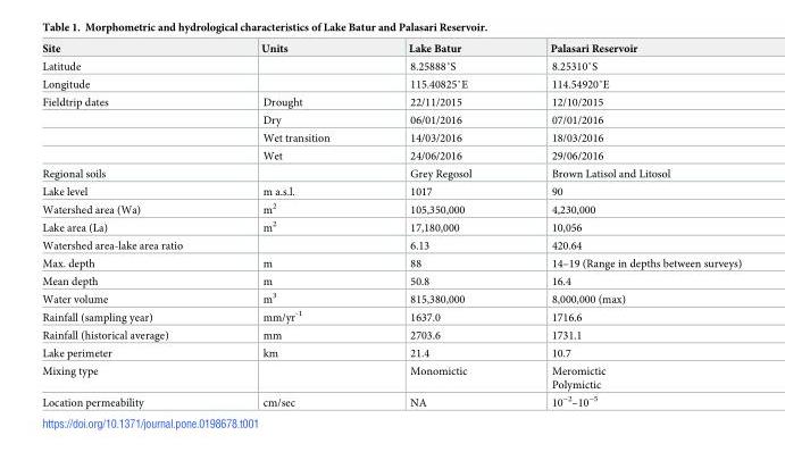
<table><thead><tr><td>Site</td><td>Units</td><td>Lake Batur</td><td>Palasari Reservoir</td></tr></thead><tbody><tr><td>Latitude</td><td></td><td>8.25888˚S</td><td>8.25310˚S</td></tr><tr><td>Longitude</td><td></td><td>115.40825˚E</td><td>114.54920˚E</td></tr><tr><td rowspan="4">Fieldtrip dates</td><td>Drought</td><td>22/11/2015</td><td>12/10/2015</td></tr><tr><td>Dry</td><td>06/01/2016</td><td>07/01/2016</td></tr><tr><td>Wet transition</td><td>14/03/2016</td><td>18/03/2016</td></tr><tr><td>Wet</td><td>24/06/2016</td><td>29/06/2016</td></tr><tr><td>Regional soils</td><td></td><td>Grey Regosol</td><td>Brown Latisol and Litosol</td></tr><tr><td>Lake level</td><td>m a.s.l.</td><td>1017</td><td>90</td></tr><tr><td>Watershed area (Wa)</td><td>m<sup>2</sup></td><td>105,350,000</td><td>4,230,000</td></tr><tr><td>Lake area (La)</td><td>m<sup>2</sup></td><td>17,180,000</td><td>10,056</td></tr><tr><td>Watershed area-lake area ratio</td><td></td><td>6.13</td><td>420.64</td></tr><tr><td>Max. depth</td><td>m</td><td>88</td><td>14–19 (Range in depths between surveys)</td></tr><tr><td>Mean depth</td><td>m</td><td>50.8</td><td>16.4</td></tr><tr><td>Water volume</td><td>m<sup>3</sup></td><td>815,380,000</td><td>8,000,000 (max)</td></tr><tr><td>Rainfall (sampling year)</td><td>mm/yr<sup>-1</sup></td><td>1637.0</td><td>1716.6</td></tr><tr><td>Rainfall (historical average)</td><td>mm</td><td>2703.6</td><td>1731.1</td></tr><tr><td>Lake perimeter</td><td>km</td><td>21.4</td><td>10.7</td></tr><tr><td>Mixing type</td><td></td><td>Monomictic</td><td>Meromictic Polymictic</td></tr><tr><td>Location permeability</td><td>cm/sec</td><td>NA</td><td>10<sup>−2</sup>–10<sup>−5</sup></td></tr></tbody></table>